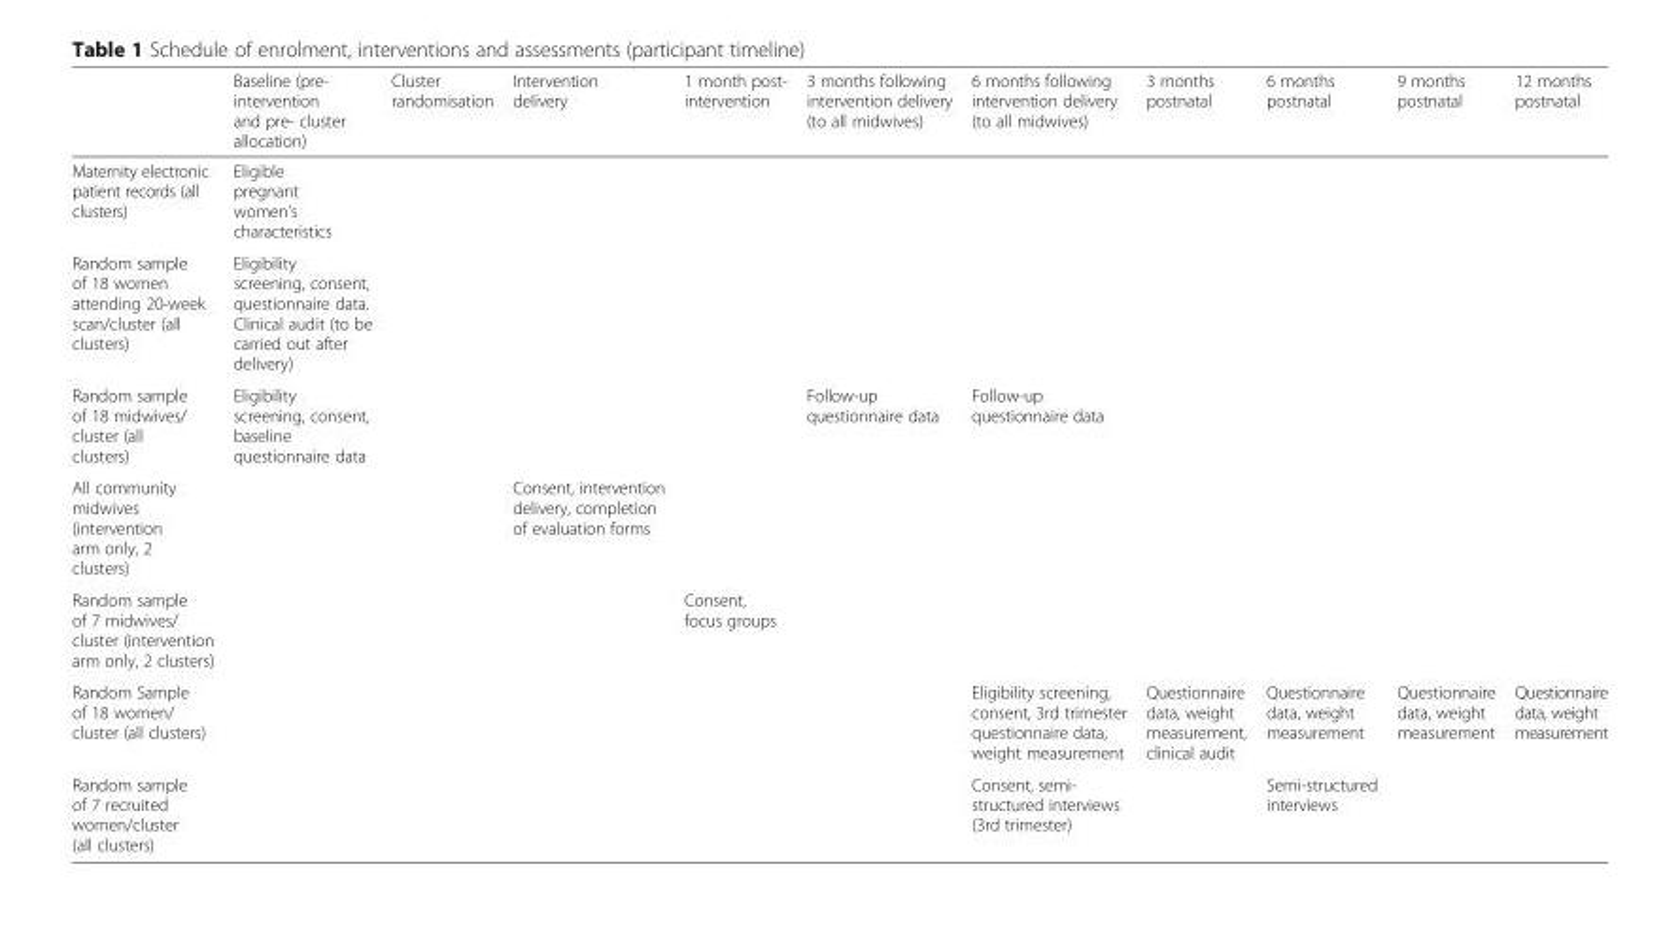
<table><thead><tr><td></td><td>Baseline (pre- intervention and pre- cluster allocation)</td><td>Cluster randomisation</td><td>Intervention delivery</td><td>1 month post- intervention</td><td>3 months following intervention delivery (to all midwives)</td><td>6 months following intervention delivery (to all midwives)</td><td>3 months postnatal</td><td>6 months postnatal</td><td>9 months postnatal</td><td>12 months postnatal</td></tr></thead><tbody><tr><td>Maternity electronic patient records (all clusters)</td><td>Eligible pregnant women’s characteristics</td><td rowspan="7"></td><td></td><td></td><td></td><td></td><td></td><td></td><td></td><td></td></tr><tr><td>Random sample of 18 women attending 20-week scan/cluster (all clusters)</td><td>Eligibility screening, consent, questionnaire data. Clinical audit (to be carried out after delivery)</td><td></td><td></td><td></td><td></td><td></td><td></td><td></td><td></td></tr><tr><td>Random sample of 18 midwives/ cluster (all clusters)</td><td>Eligibility screening, consent, baseline questionnaire data</td><td></td><td></td><td>Follow-up questionnaire data</td><td>Follow-up questionnaire data</td><td></td><td></td><td></td><td></td></tr><tr><td>All community midwives (intervention arm only, 2 clusters)</td><td></td><td>Consent, intervention delivery, completion of evaluation forms</td><td></td><td></td><td></td><td></td><td></td><td></td><td></td></tr><tr><td>Random sample of 7 midwives/ cluster (intervention arm only, 2 clusters)</td><td></td><td></td><td>Consent, focus groups</td><td></td><td></td><td></td><td></td><td></td><td></td></tr><tr><td>Random Sample of 18 women/ cluster (all clusters)</td><td></td><td></td><td></td><td></td><td>Eligibility screening, consent, 3rd trimester questionnaire data, weight measurement</td><td>Questionnaire data, weight measurement, clinical audit</td><td>Questionnaire data, weight measurement</td><td>Questionnaire data, weight measurement</td><td>Questionnaire data, weight measurement</td></tr><tr><td>Random sample of 7 recruited women/cluster (all clusters)</td><td></td><td></td><td></td><td></td><td>Consent, semi- structured interviews (3rd trimester)</td><td></td><td>Semi-structured interviews</td><td></td><td></td></tr></tbody></table>